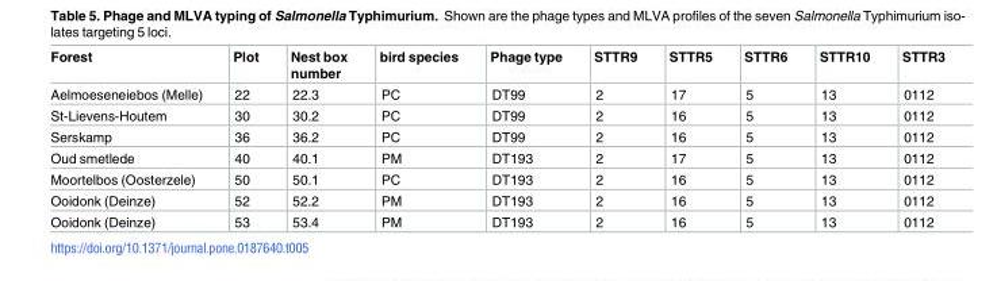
<table><thead><tr><td>Forest</td><td>Plot</td><td>Nest box number</td><td>bird species</td><td>Phage type</td><td>STTR9</td><td>STTR5</td><td>STTR6</td><td>STTR10</td><td>STTR3</td></tr></thead><tbody><tr><td>Aelmoeseneiebos (Melle)</td><td>22</td><td>22.3</td><td>PC</td><td>DT99</td><td>2</td><td>17</td><td>5</td><td>13</td><td>0112</td></tr><tr><td>St-Lievens-Houtem</td><td>30</td><td>30.2</td><td>PC</td><td>DT99</td><td>2</td><td>16</td><td>5</td><td>13</td><td>0112</td></tr><tr><td>Serskamp</td><td>36</td><td>36.2</td><td>PC</td><td>DT99</td><td>2</td><td>16</td><td>5</td><td>13</td><td>0112</td></tr><tr><td>Oud smetlede</td><td>40</td><td>40.1</td><td>PM</td><td>DT193</td><td>2</td><td>17</td><td>5</td><td>13</td><td>0112</td></tr><tr><td>Moortelbos (Oosterzele)</td><td>50</td><td>50.1</td><td>PC</td><td>DT193</td><td>2</td><td>16</td><td>5</td><td>13</td><td>0112</td></tr><tr><td>Ooidonk (Deinze)</td><td>52</td><td>52.2</td><td>PM</td><td>DT193</td><td>2</td><td>16</td><td>5</td><td>13</td><td>0112</td></tr><tr><td>Ooidonk (Deinze)</td><td>53</td><td>53.4</td><td>PM</td><td>DT193</td><td>2</td><td>16</td><td>5</td><td>13</td><td>0112</td></tr></tbody></table>